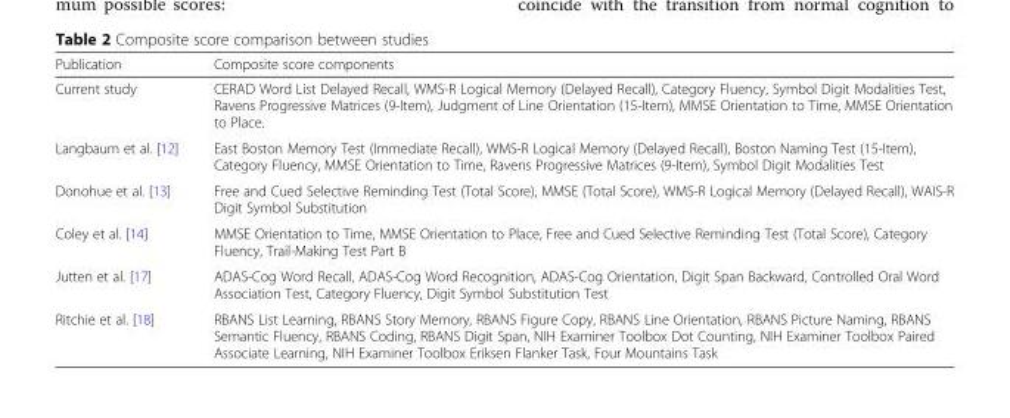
<table><thead><tr><td>Publication</td><td>Composite score components</td></tr></thead><tbody><tr><td>Current study</td><td>CERAD Word List Delayed Recall, WMS-R Logical Memory (Delayed Recall), Category Fluency, Symbol Digit Modalities Test, Ravens Progressive Matrices (9-Item), Judgment of Line Orientation (15-Item), MMSE Orientation to Time, MMSE Orientation to Place.</td></tr><tr><td>Langbaum et al. [12]</td><td>East Boston Memory Test (Immediate Recall), WMS-R Logical Memory (Delayed Recall), Boston Naming Test (15-Item), Category Fluency, MMSE Orientation to Time, Ravens Progressive Matrices (9-Item), Symbol Digit Modalities Test</td></tr><tr><td>Donohue et al. [13]</td><td>Free and Cued Selective Reminding Test (Total Score), MMSE (Total Score), WMS-R Logical Memory (Delayed Recall), WAIS-R Digit Symbol Substitution</td></tr><tr><td>Coley et al. [14]</td><td>MMSE Orientation to Time, MMSE Orientation to Place, Free and Cued Selective Reminding Test (Total Score), Category Fluency, Trail-Making Test Part B</td></tr><tr><td>Jutten et al. [17]</td><td>ADAS-Cog Word Recall, ADAS-Cog Word Recognition, ADAS-Cog Orientation, Digit Span Backward, Controlled Oral Word Association Test, Category Fluency, Digit Symbol Substitution Test</td></tr><tr><td>Ritchie et al. [18]</td><td>RBANS List Learning, RBANS Story Memory, RBANS Figure Copy, RBANS Line Orientation, RBANS Picture Naming, RBANS Semantic Fluency, RBANS Coding, RBANS Digit Span, NIH Examiner Toolbox Dot Counting, NIH Examiner Toolbox Paired Associate Learning, NIH Examiner Toolbox Eriksen Flanker Task, Four Mountains Task</td></tr></tbody></table>